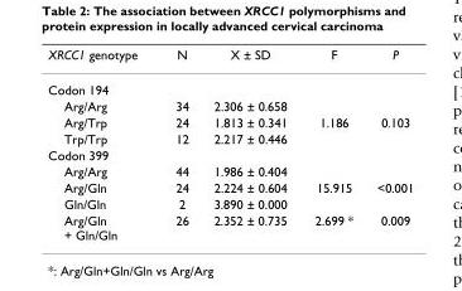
<table><thead><tr><td>XRCC1 genotype</td><td>N</td><td>X ± SD</td><td>F</td><td>P</td></tr></thead><tbody><tr><td colspan="5">Codon 194</td></tr><tr><td>Arg/Arg</td><td>34</td><td>2.306 ± 0.658</td><td></td><td></td></tr><tr><td>Arg/Trp</td><td>24</td><td>1.813 ± 0.341</td><td>1.186</td><td>0.103</td></tr><tr><td>Trp/Trp</td><td>12</td><td>2.217 ± 0.446</td><td></td><td></td></tr><tr><td colspan="5">Codon 399</td></tr><tr><td>Arg/Arg</td><td>44</td><td>1.986 ± 0.404</td><td></td><td></td></tr><tr><td>Arg/Gln</td><td>24</td><td>2.224 ± 0.604</td><td>15.915</td><td>&lt;0.001</td></tr><tr><td>Gln/Gln</td><td>2</td><td>3.890 ± 0.000</td><td></td><td></td></tr><tr><td>Arg/Gln + Gln/Gln</td><td>26</td><td>2.352 ± 0.735</td><td>2.699 *</td><td>0.009</td></tr></tbody></table>